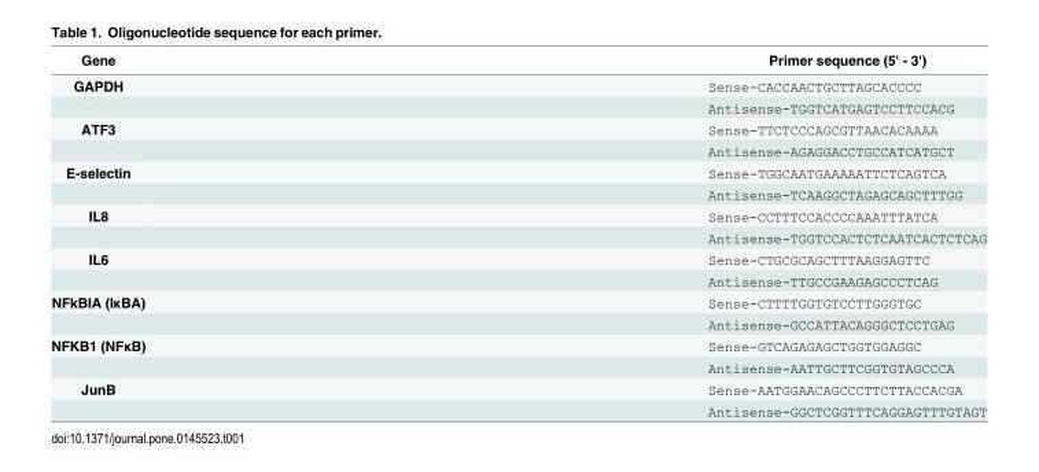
<table><thead><tr><td>Gene</td><td>Primer sequence (5&#x27; - 3&#x27;)</td></tr></thead><tbody><tr><td rowspan="2">GAPDH</td><td>Sense-CACCAACTGCTTAGCACCCC</td></tr><tr><td>Antisense-TGGTCATGAGTCCTTCCACG</td></tr><tr><td rowspan="2">ATF3</td><td>Sense-TTCTCCCAGCGTTAACACAAAA</td></tr><tr><td>Antisense-AGAGGACCTGCCATCATGCT</td></tr><tr><td rowspan="2">E-selectin</td><td>Sense-TGGCAATGAAAAATTCTCAGTCA</td></tr><tr><td>Antisense-TCAAGGCTAGAGCAGCTTTGG</td></tr><tr><td rowspan="2">IL8</td><td>Sense-CCTTTCCACCCCAAATTTATCA</td></tr><tr><td>Antisense-TGGTCCACTCTCAATCACTCTCAG</td></tr><tr><td rowspan="2">IL6</td><td>Sense-CTGCGCAGCTTTAAGGAGTTC</td></tr><tr><td>Antisense-TTGCCGAAGAGCCCTCAG</td></tr><tr><td rowspan="2">NFkBIA (IκBA)</td><td>Sense-CTTTTGGTGTCCTTGGGTGC</td></tr><tr><td>Antisense-GCCATTACAGGGCTCCTGAG</td></tr><tr><td rowspan="2">NFKB1 (NFκB)</td><td>Sense-GTCAGAGAGCTGGTGGAGGC</td></tr><tr><td>Antisense-AATTGCTTCGGTGTAGCCCA</td></tr><tr><td rowspan="2">JunB</td><td>Sense-AATGGAACAGCCCTTCTTACCACGA</td></tr><tr><td>Antisense-GGCTCGGTTTCAGGAGTTTGTAGT</td></tr></tbody></table>